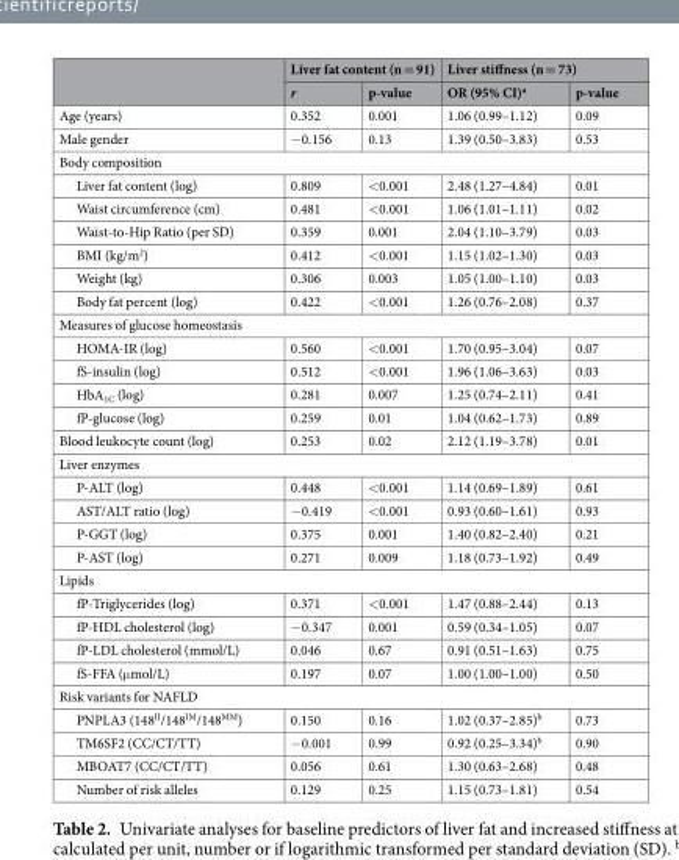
<table><thead><tr><td rowspan="2"></td><td colspan="2">Liver fat content (n = 91)</td><td colspan="2">Liver stiffness (n = 73)</td></tr><tr><td>r</td><td>p-value</td><td>OR (95% CI)<sup>a</sup></td><td>p-value</td></tr></thead><tbody><tr><td>Age (years)</td><td>0.352</td><td>0.001</td><td>1.06 (0.99–1.12)</td><td>0.09</td></tr><tr><td>Male gender</td><td>−0.156</td><td>0.13</td><td>1.39 (0.50–3.83)</td><td>0.53</td></tr><tr><td colspan="5">Body composition</td></tr><tr><td>Liver fat content (log)</td><td>0.809</td><td>&lt;0.001</td><td>2.48 (1.27–4.84)</td><td>0.01</td></tr><tr><td>Waist circumference (cm)</td><td>0.481</td><td>&lt;0.001</td><td>1.06 (1.01–1.11)</td><td>0.02</td></tr><tr><td>Waist-to-Hip Ratio (per SD)</td><td>0.359</td><td>0.001</td><td>2.04 (1.10–3.79)</td><td>0.03</td></tr><tr><td>BMI (kg/m<sup>2</sup>)</td><td>0.412</td><td>&lt;0.001</td><td>1.15 (1.02–1.30)</td><td>0.03</td></tr><tr><td>Weight (kg)</td><td>0.306</td><td>0.003</td><td>1.05 (1.00–1.10)</td><td>0.03</td></tr><tr><td>Body fat percent (log)</td><td>0.422</td><td>&lt;0.001</td><td>1.26 (0.76–2.08)</td><td>0.37</td></tr><tr><td colspan="5">Measures of glucose homeostasis</td></tr><tr><td>HOMA-IR (log)</td><td>0.560</td><td>&lt;0.001</td><td>1.70 (0.95–3.04)</td><td>0.07</td></tr><tr><td>fS-insulin (log)</td><td>0.512</td><td>&lt;0.001</td><td>1.96 (1.06–3.63)</td><td>0.03</td></tr><tr><td>HbA<sub>1C</sub> (log)</td><td>0.281</td><td>0.007</td><td>1.25 (0.74–2.11)</td><td>0.41</td></tr><tr><td>fP-glucose (log)</td><td>0.259</td><td>0.01</td><td>1.04 (0.62–1.73)</td><td>0.89</td></tr><tr><td>Blood leukocyte count (log)</td><td>0.253</td><td>0.02</td><td>2.12 (1.19–3.78)</td><td>0.01</td></tr><tr><td colspan="5">Liver enzymes</td></tr><tr><td>P-ALT (log)</td><td>0.448</td><td>&lt;0.001</td><td>1.14 (0.69–1.89)</td><td>0.61</td></tr><tr><td>AST/ALT ratio (log)</td><td>−0.419</td><td>&lt;0.001</td><td>0.93 (0.60–1.61)</td><td>0.93</td></tr><tr><td>P-GGT (log)</td><td>0.375</td><td>0.001</td><td>1.40 (0.82–2.40)</td><td>0.21</td></tr><tr><td>P-AST (log)</td><td>0.271</td><td>0.009</td><td>1.18 (0.73–1.92)</td><td>0.49</td></tr><tr><td colspan="5">Lipids</td></tr><tr><td>fP-Triglycerides (log)</td><td>0.371</td><td>&lt;0.001</td><td>1.47 (0.88–2.44)</td><td>0.13</td></tr><tr><td>fP-HDL cholesterol (log)</td><td>−0.347</td><td>0.001</td><td>0.59 (0.34–1.05)</td><td>0.07</td></tr><tr><td>fP-LDL cholesterol (mmol/L)</td><td>0.046</td><td>0.67</td><td>0.91 (0.51–1.63)</td><td>0.75</td></tr><tr><td>fS-FFA (μmol/L)</td><td>0.197</td><td>0.07</td><td>1.00 (1.00–1.00)</td><td>0.50</td></tr><tr><td colspan="5">Risk variants for NAFLD</td></tr><tr><td>PNPLA3 (148<sup>II</sup>/148<sup>IM</sup>/148<sup>MM</sup>)</td><td>0.150</td><td>0.16</td><td>1.02 (0.37–2.85)<sup>b</sup></td><td>0.73</td></tr><tr><td>TM6SF2 (CC/CT/TT)</td><td>−0.001</td><td>0.99</td><td>0.92 (0.25–3.34)<sup>b</sup></td><td>0.90</td></tr><tr><td>MBOAT7 (CC/CT/TT)</td><td>0.056</td><td>0.61</td><td>1.30 (0.63–2.68)</td><td>0.48</td></tr><tr><td>Number of risk alleles</td><td>0.129</td><td>0.25</td><td>1.15 (0.73–1.81)</td><td>0.54</td></tr></tbody></table>